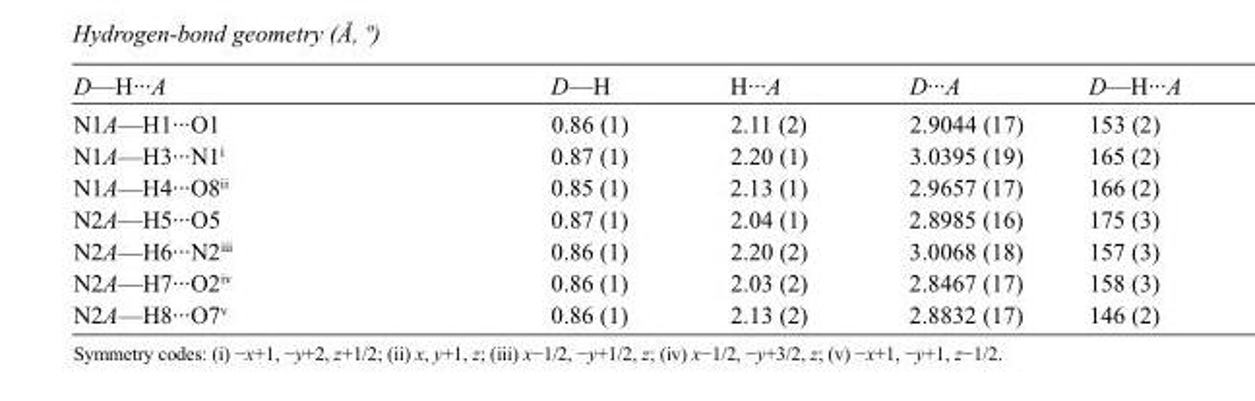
<table><tbody><tr><td>D—H···A</td><td>D—H</td><td>H···A</td><td>D···A</td><td>D—H···A</td></tr><tr><td>N1A—H1···O1</td><td>0.86 (1)</td><td>2.11 (2)</td><td>2.9044 (17)</td><td>153 (2)</td></tr><tr><td>N1A—H3···N1<sup>i</sup></td><td>0.87 (1)</td><td>2.20 (1)</td><td>3.0395 (19)</td><td>165 (2)</td></tr><tr><td>N1A—H4···O8<sup>ii</sup></td><td>0.85 (1)</td><td>2.13 (1)</td><td>2.9657 (17)</td><td>166 (2)</td></tr><tr><td>N2A—H5···O5</td><td>0.87 (1)</td><td>2.04 (1)</td><td>2.8985 (16)</td><td>175 (3)</td></tr><tr><td>N2A—H6···N2<sup>iii</sup></td><td>0.86 (1)</td><td>2.20 (2)</td><td>3.0068 (18)</td><td>157 (3)</td></tr><tr><td>N2A—H7···O2<sup>iv</sup></td><td>0.86 (1)</td><td>2.03 (2)</td><td>2.8467 (17)</td><td>158 (3)</td></tr><tr><td>N2A—H8···O7<sup>v</sup></td><td>0.86 (1)</td><td>2.13 (2)</td><td>2.8832 (17)</td><td>146 (2)</td></tr></tbody></table>